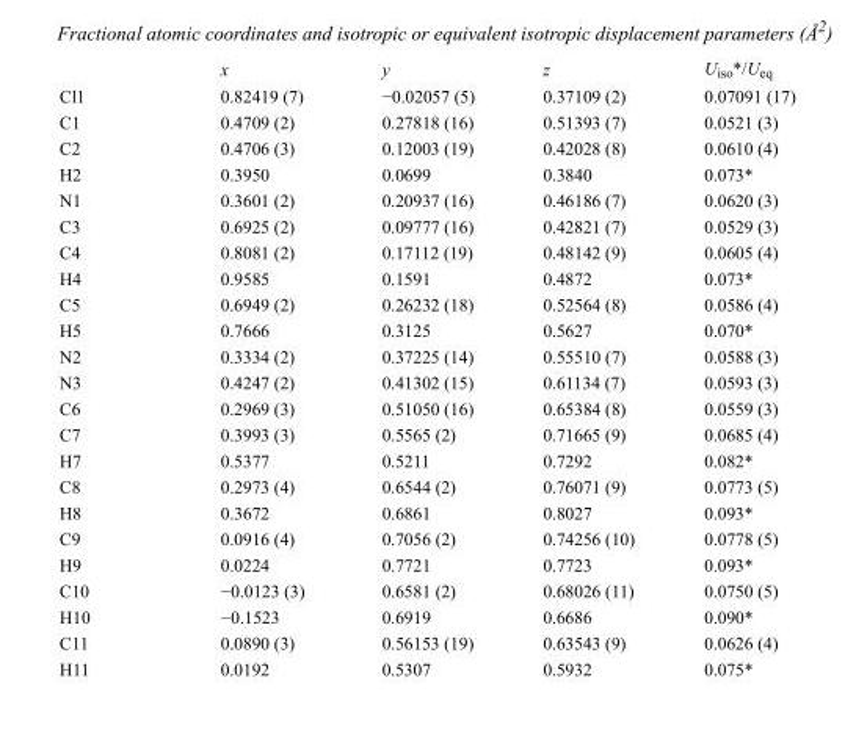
<table><thead><tr><td></td><td>x</td><td>y</td><td>z</td><td>U<sub>iso</sub>*/U<sub>eq</sub></td></tr></thead><tbody><tr><td>Cl1</td><td>0.82419 (7)</td><td>−0.02057 (5)</td><td>0.37109 (2)</td><td>0.07091 (17)</td></tr><tr><td>C1</td><td>0.4709 (2)</td><td>0.27818 (16)</td><td>0.51393 (7)</td><td>0.0521 (3)</td></tr><tr><td>C2</td><td>0.4706 (3)</td><td>0.12003 (19)</td><td>0.42028 (8)</td><td>0.0610 (4)</td></tr><tr><td>H2</td><td>0.3950</td><td>0.0699</td><td>0.3840</td><td>0.073*</td></tr><tr><td>N1</td><td>0.3601 (2)</td><td>0.20937 (16)</td><td>0.46186 (7)</td><td>0.0620 (3)</td></tr><tr><td>C3</td><td>0.6925 (2)</td><td>0.09777 (16)</td><td>0.42821 (7)</td><td>0.0529 (3)</td></tr><tr><td>C4</td><td>0.8081 (2)</td><td>0.17112 (19)</td><td>0.48142 (9)</td><td>0.0605 (4)</td></tr><tr><td>H4</td><td>0.9585</td><td>0.1591</td><td>0.4872</td><td>0.073*</td></tr><tr><td>C5</td><td>0.6949 (2)</td><td>0.26232 (18)</td><td>0.52564 (8)</td><td>0.0586 (4)</td></tr><tr><td>H5</td><td>0.7666</td><td>0.3125</td><td>0.5627</td><td>0.070*</td></tr><tr><td>N2</td><td>0.3334 (2)</td><td>0.37225 (14)</td><td>0.55510 (7)</td><td>0.0588 (3)</td></tr><tr><td>N3</td><td>0.4247 (2)</td><td>0.41302 (15)</td><td>0.61134 (7)</td><td>0.0593 (3)</td></tr><tr><td>C6</td><td>0.2969 (3)</td><td>0.51050 (16)</td><td>0.65384 (8)</td><td>0.0559 (3)</td></tr><tr><td>C7</td><td>0.3993 (3)</td><td>0.5565 (2)</td><td>0.71665 (9)</td><td>0.0685 (4)</td></tr><tr><td>H7</td><td>0.5377</td><td>0.5211</td><td>0.7292</td><td>0.082*</td></tr><tr><td>C8</td><td>0.2973 (4)</td><td>0.6544 (2)</td><td>0.76071 (9)</td><td>0.0773 (5)</td></tr><tr><td>H8</td><td>0.3672</td><td>0.6861</td><td>0.8027</td><td>0.093*</td></tr><tr><td>C9</td><td>0.0916 (4)</td><td>0.7056 (2)</td><td>0.74256 (10)</td><td>0.0778 (5)</td></tr><tr><td>H9</td><td>0.0224</td><td>0.7721</td><td>0.7723</td><td>0.093*</td></tr><tr><td>C10</td><td>−0.0123 (3)</td><td>0.6581 (2)</td><td>0.68026 (11)</td><td>0.0750 (5)</td></tr><tr><td>H10</td><td>−0.1523</td><td>0.6919</td><td>0.6686</td><td>0.090*</td></tr><tr><td>C11</td><td>0.0890 (3)</td><td>0.56153 (19)</td><td>0.63543 (9)</td><td>0.0626 (4)</td></tr><tr><td>H11</td><td>0.0192</td><td>0.5307</td><td>0.5932</td><td>0.075*</td></tr></tbody></table>